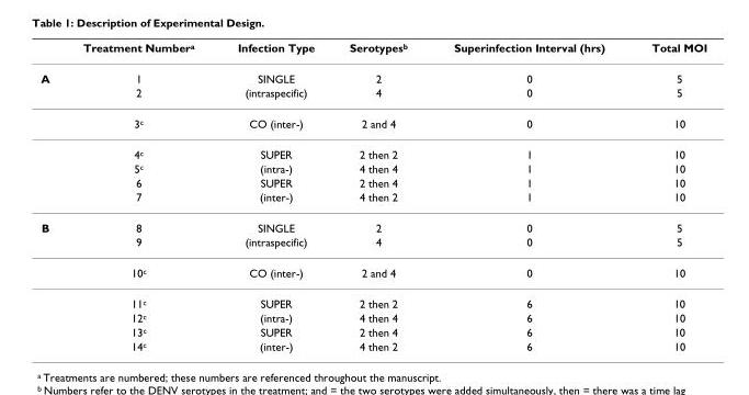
<table><thead><tr><td></td><td>Treatment Number<sup>a</sup></td><td>Infection Type</td><td>Serotypes<sup>b</sup></td><td>Superinfection Interval (hrs)</td><td>Total MOI</td></tr></thead><tbody><tr><td rowspan="7">A</td><td>1</td><td>SINGLE</td><td>2</td><td>0</td><td>5</td></tr><tr><td>2</td><td>(intraspecific)</td><td>4</td><td>0</td><td>5</td></tr><tr><td>3<sup>c</sup></td><td>CO (inter-)</td><td>2 and 4</td><td>0</td><td>10</td></tr><tr><td>4<sup>c</sup></td><td>SUPER</td><td>2 then 2</td><td>1</td><td>10</td></tr><tr><td>5<sup>c</sup></td><td>(intra-)</td><td>4 then 4</td><td>1</td><td>10</td></tr><tr><td>6</td><td>SUPER</td><td>2 then 4</td><td>1</td><td>10</td></tr><tr><td>7</td><td>(inter-)</td><td>4 then 2</td><td>1</td><td>10</td></tr><tr><td rowspan="7">B</td><td>8</td><td>SINGLE</td><td>2</td><td>0</td><td>5</td></tr><tr><td>9</td><td>(intraspecific)</td><td>4</td><td>0</td><td>5</td></tr><tr><td>10<sup>c</sup></td><td>CO (inter-)</td><td>2 and 4</td><td>0</td><td>10</td></tr><tr><td>11<sup>c</sup></td><td>SUPER</td><td>2 then 2</td><td>6</td><td>10</td></tr><tr><td>12<sup>c</sup></td><td>(intra-)</td><td>4 then 4</td><td>6</td><td>10</td></tr><tr><td>13<sup>c</sup></td><td>SUPER</td><td>2 then 4</td><td>6</td><td>10</td></tr><tr><td>14<sup>c</sup></td><td>(inter-)</td><td>4 then 2</td><td>6</td><td>10</td></tr></tbody></table>